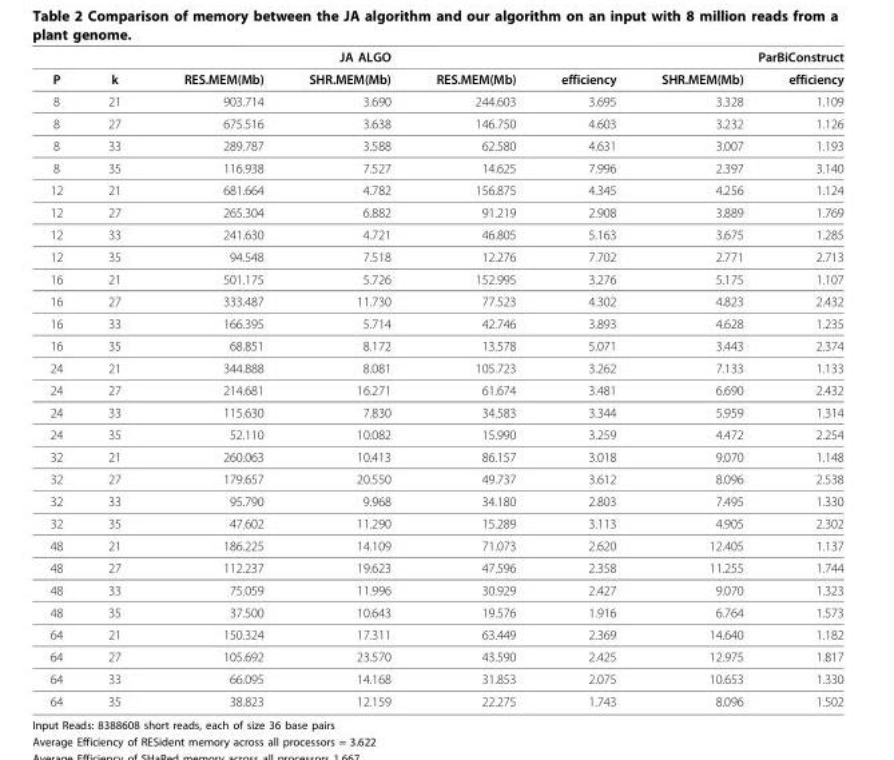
<table><thead><tr><td rowspan="2">P</td><td rowspan="2">k</td><td colspan="2">JA ALGO</td><td colspan="4">ParBiConstruct</td></tr><tr><td>RES.MEM(Mb)</td><td>SHR.MEM(Mb)</td><td>RES.MEM(Mb)</td><td>efficiency</td><td>SHR.MEM(Mb)</td><td>efficiency</td></tr></thead><tbody><tr><td>8</td><td>21</td><td>903.714</td><td>3.690</td><td>244.603</td><td>3.695</td><td>3.328</td><td>1.109</td></tr><tr><td>8</td><td>27</td><td>675.516</td><td>3.638</td><td>146.750</td><td>4.603</td><td>3.232</td><td>1.126</td></tr><tr><td>8</td><td>33</td><td>289.787</td><td>3.588</td><td>62.580</td><td>4.631</td><td>3.007</td><td>1.193</td></tr><tr><td>8</td><td>35</td><td>116.938</td><td>7.527</td><td>14.625</td><td>7.996</td><td>2.397</td><td>3.140</td></tr><tr><td>12</td><td>21</td><td>681.664</td><td>4.782</td><td>156.875</td><td>4.345</td><td>4.256</td><td>1.124</td></tr><tr><td>12</td><td>27</td><td>265.304</td><td>6.882</td><td>91.219</td><td>2.908</td><td>3.889</td><td>1.769</td></tr><tr><td>12</td><td>33</td><td>241.630</td><td>4.721</td><td>46.805</td><td>5.163</td><td>3.675</td><td>1.285</td></tr><tr><td>12</td><td>35</td><td>94.548</td><td>7.518</td><td>12.276</td><td>7.702</td><td>2.771</td><td>2.713</td></tr><tr><td>16</td><td>21</td><td>501.175</td><td>5.726</td><td>152.995</td><td>3.276</td><td>5.175</td><td>1.107</td></tr><tr><td>16</td><td>27</td><td>333.487</td><td>11.730</td><td>77.523</td><td>4.302</td><td>4.823</td><td>2.432</td></tr><tr><td>16</td><td>33</td><td>166.395</td><td>5.714</td><td>42.746</td><td>3.893</td><td>4.628</td><td>1.235</td></tr><tr><td>16</td><td>35</td><td>68.851</td><td>8.172</td><td>13.578</td><td>5.071</td><td>3.443</td><td>2.374</td></tr><tr><td>24</td><td>21</td><td>344.888</td><td>8.081</td><td>105.723</td><td>3.262</td><td>7.133</td><td>1.133</td></tr><tr><td>24</td><td>27</td><td>214.681</td><td>16.271</td><td>61.674</td><td>3.481</td><td>6.690</td><td>2.432</td></tr><tr><td>24</td><td>33</td><td>115.630</td><td>7.830</td><td>34.583</td><td>3.344</td><td>5.959</td><td>1.314</td></tr><tr><td>24</td><td>35</td><td>52.110</td><td>10.082</td><td>15.990</td><td>3.259</td><td>4.472</td><td>2.254</td></tr><tr><td>32</td><td>21</td><td>260.063</td><td>10.413</td><td>86.157</td><td>3.018</td><td>9.070</td><td>1.148</td></tr><tr><td>32</td><td>27</td><td>179.657</td><td>20.550</td><td>49.737</td><td>3.612</td><td>8.096</td><td>2.538</td></tr><tr><td>32</td><td>33</td><td>95.790</td><td>9.968</td><td>34.180</td><td>2.803</td><td>7.495</td><td>1.330</td></tr><tr><td>32</td><td>35</td><td>47.602</td><td>11.290</td><td>15.289</td><td>3.113</td><td>4.905</td><td>2.302</td></tr><tr><td>48</td><td>21</td><td>186.225</td><td>14.109</td><td>71.073</td><td>2.620</td><td>12.405</td><td>1.137</td></tr><tr><td>48</td><td>27</td><td>112.237</td><td>19.623</td><td>47.596</td><td>2.358</td><td>11.255</td><td>1.744</td></tr><tr><td>48</td><td>33</td><td>75.059</td><td>11.996</td><td>30.929</td><td>2.427</td><td>9.070</td><td>1.323</td></tr><tr><td>48</td><td>35</td><td>37.500</td><td>10.643</td><td>19.576</td><td>1.916</td><td>6.764</td><td>1.573</td></tr><tr><td>64</td><td>21</td><td>150.324</td><td>17.311</td><td>63.449</td><td>2.369</td><td>14.640</td><td>1.182</td></tr><tr><td>64</td><td>27</td><td>105.692</td><td>23.570</td><td>43.590</td><td>2.425</td><td>12.975</td><td>1.817</td></tr><tr><td>64</td><td>33</td><td>66.095</td><td>14.168</td><td>31.853</td><td>2.075</td><td>10.653</td><td>1.330</td></tr><tr><td>64</td><td>35</td><td>38.823</td><td>12.159</td><td>22.275</td><td>1.743</td><td>8.096</td><td>1.502</td></tr></tbody></table>